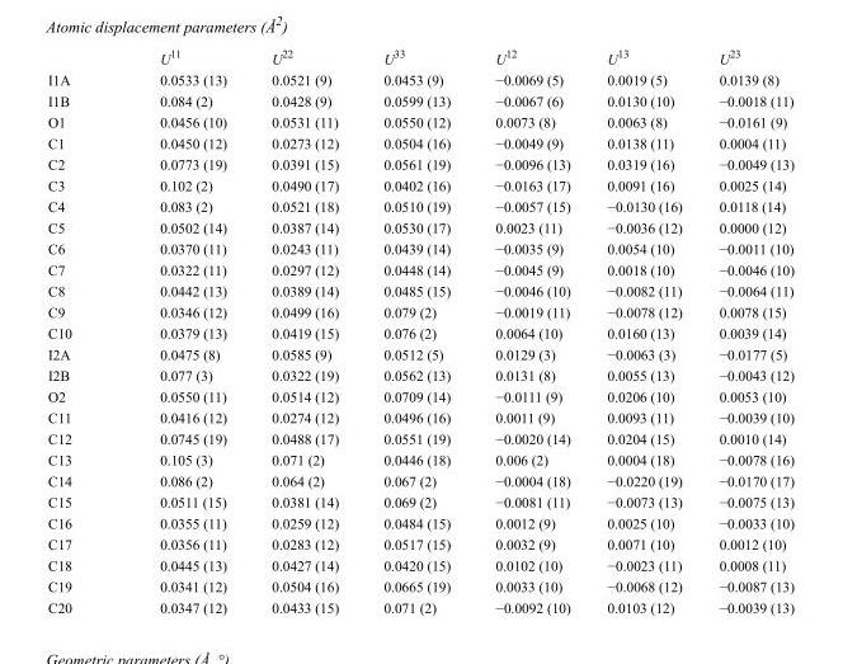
<table><thead><tr><td></td><td>U<sup>11</sup></td><td>U<sup>22</sup></td><td>U<sup>33</sup></td><td>U<sup>12</sup></td><td>U<sup>13</sup></td><td>U<sup>23</sup></td></tr></thead><tbody><tr><td>I1A</td><td>0.0533 (13)</td><td>0.0521 (9)</td><td>0.0453 (9)</td><td>−0.0069 (5)</td><td>0.0019 (5)</td><td>0.0139 (8)</td></tr><tr><td>I1B</td><td>0.084 (2)</td><td>0.0428 (9)</td><td>0.0599 (13)</td><td>−0.0067 (6)</td><td>0.0130 (10)</td><td>−0.0018 (11)</td></tr><tr><td>O1</td><td>0.0456 (10)</td><td>0.0531 (11)</td><td>0.0550 (12)</td><td>0.0073 (8)</td><td>0.0063 (8)</td><td>−0.0161 (9)</td></tr><tr><td>C1</td><td>0.0450 (12)</td><td>0.0273 (12)</td><td>0.0504 (16)</td><td>−0.0049 (9)</td><td>0.0138 (11)</td><td>0.0004 (11)</td></tr><tr><td>C2</td><td>0.0773 (19)</td><td>0.0391 (15)</td><td>0.0561 (19)</td><td>−0.0096 (13)</td><td>0.0319 (16)</td><td>−0.0049 (13)</td></tr><tr><td>C3</td><td>0.102 (2)</td><td>0.0490 (17)</td><td>0.0402 (16)</td><td>−0.0163 (17)</td><td>0.0091 (16)</td><td>0.0025 (14)</td></tr><tr><td>C4</td><td>0.083 (2)</td><td>0.0521 (18)</td><td>0.0510 (19)</td><td>−0.0057 (15)</td><td>−0.0130 (16)</td><td>0.0118 (14)</td></tr><tr><td>C5</td><td>0.0502 (14)</td><td>0.0387 (14)</td><td>0.0530 (17)</td><td>0.0023 (11)</td><td>−0.0036 (12)</td><td>0.0000 (12)</td></tr><tr><td>C6</td><td>0.0370 (11)</td><td>0.0243 (11)</td><td>0.0439 (14)</td><td>−0.0035 (9)</td><td>0.0054 (10)</td><td>−0.0011 (10)</td></tr><tr><td>C7</td><td>0.0322 (11)</td><td>0.0297 (12)</td><td>0.0448 (14)</td><td>−0.0045 (9)</td><td>0.0018 (10)</td><td>−0.0046 (10)</td></tr><tr><td>C8</td><td>0.0442 (13)</td><td>0.0389 (14)</td><td>0.0485 (15)</td><td>−0.0046 (10)</td><td>−0.0082 (11)</td><td>−0.0064 (11)</td></tr><tr><td>C9</td><td>0.0346 (12)</td><td>0.0499 (16)</td><td>0.079 (2)</td><td>−0.0019 (11)</td><td>−0.0078 (12)</td><td>0.0078 (15)</td></tr><tr><td>C10</td><td>0.0379 (13)</td><td>0.0419 (15)</td><td>0.076 (2)</td><td>0.0064 (10)</td><td>0.0160 (13)</td><td>0.0039 (14)</td></tr><tr><td>I2A</td><td>0.0475 (8)</td><td>0.0585 (9)</td><td>0.0512 (5)</td><td>0.0129 (3)</td><td>−0.0063 (3)</td><td>−0.0177 (5)</td></tr><tr><td>I2B</td><td>0.077 (3)</td><td>0.0322 (19)</td><td>0.0562 (13)</td><td>0.0131 (8)</td><td>0.0055 (13)</td><td>−0.0043 (12)</td></tr><tr><td>O2</td><td>0.0550 (11)</td><td>0.0514 (12)</td><td>0.0709 (14)</td><td>−0.0111 (9)</td><td>0.0206 (10)</td><td>0.0053 (10)</td></tr><tr><td>C11</td><td>0.0416 (12)</td><td>0.0274 (12)</td><td>0.0496 (16)</td><td>0.0011 (9)</td><td>0.0093 (11)</td><td>−0.0039 (10)</td></tr><tr><td>C12</td><td>0.0745 (19)</td><td>0.0488 (17)</td><td>0.0551 (19)</td><td>−0.0020 (14)</td><td>0.0204 (15)</td><td>0.0010 (14)</td></tr><tr><td>C13</td><td>0.105 (3)</td><td>0.071 (2)</td><td>0.0446 (18)</td><td>0.006 (2)</td><td>0.0004 (18)</td><td>−0.0078 (16)</td></tr><tr><td>C14</td><td>0.086 (2)</td><td>0.064 (2)</td><td>0.067 (2)</td><td>−0.0004 (18)</td><td>−0.0220 (19)</td><td>−0.0170 (17)</td></tr><tr><td>C15</td><td>0.0511 (15)</td><td>0.0381 (14)</td><td>0.069 (2)</td><td>−0.0081 (11)</td><td>−0.0073 (13)</td><td>−0.0075 (13)</td></tr><tr><td>C16</td><td>0.0355 (11)</td><td>0.0259 (12)</td><td>0.0484 (15)</td><td>0.0012 (9)</td><td>0.0025 (10)</td><td>−0.0033 (10)</td></tr><tr><td>C17</td><td>0.0356 (11)</td><td>0.0283 (12)</td><td>0.0517 (15)</td><td>0.0032 (9)</td><td>0.0071 (10)</td><td>0.0012 (10)</td></tr><tr><td>C18</td><td>0.0445 (13)</td><td>0.0427 (14)</td><td>0.0420 (15)</td><td>0.0102 (10)</td><td>−0.0023 (11)</td><td>0.0008 (11)</td></tr><tr><td>C19</td><td>0.0341 (12)</td><td>0.0504 (16)</td><td>0.0665 (19)</td><td>0.0033 (10)</td><td>−0.0068 (12)</td><td>−0.0087 (13)</td></tr><tr><td>C20</td><td>0.0347 (12)</td><td>0.0433 (15)</td><td>0.071 (2)</td><td>−0.0092 (10)</td><td>0.0103 (12)</td><td>−0.0039 (13)</td></tr></tbody></table>